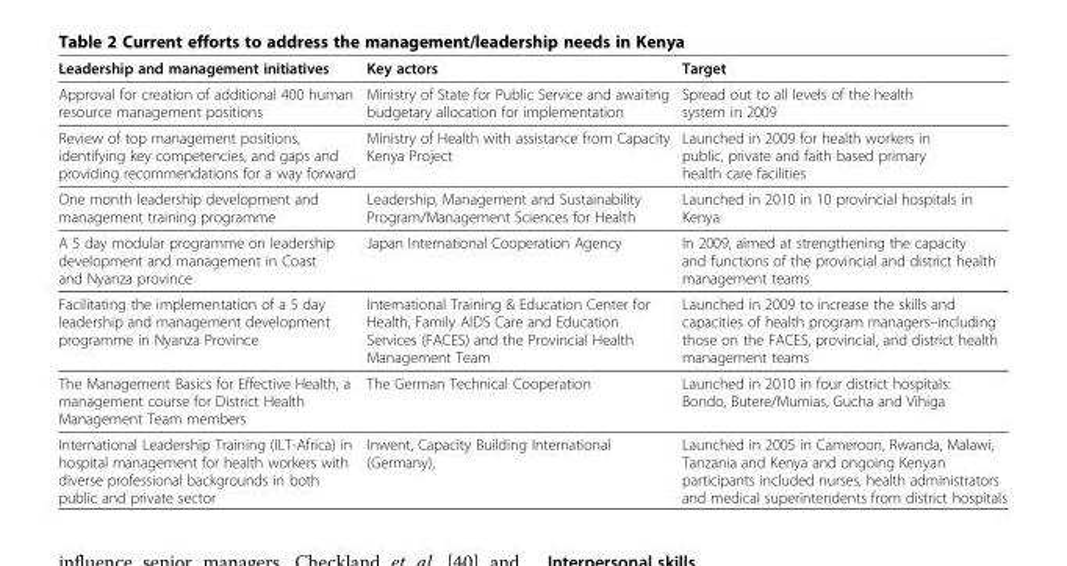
<table><thead><tr><td>Leadership and management initiatives</td><td>Key actors</td><td>Target</td></tr></thead><tbody><tr><td>Approval for creation of additional 400 human resource management positions</td><td>Ministry of State for Public Service and awaiting budgetary allocation for implementation</td><td>Spread out to all levels of the health system in 2009</td></tr><tr><td>Review of top management positions, identifying key competencies, and gaps and providing recommendations for a way forward</td><td>Ministry of Health with assistance from Capacity Kenya Project</td><td>Launched in 2009 for health workers in public, private and faith based primary health care facilities</td></tr><tr><td>One month leadership development and management training programme</td><td>Leadership, Management and Sustainability Program/Management Sciences for Health</td><td>Launched in 2010 in 10 provincial hospitals in Kenya</td></tr><tr><td>A 5 day modular programme on leadership development and management in Coast and Nyanza province</td><td>Japan International Cooperation Agency</td><td>In 2009, aimed at strengthening the capacity and functions of the provincial and district health management teams</td></tr><tr><td>Facilitating the implementation of a 5 day leadership and management development programme in Nyanza Province</td><td>International Training &amp; Education Center for Health, Family AIDS Care and Education Services (FACES) and the Provincial Health Management Team</td><td>Launched in 2009 to increase the skills and capacities of health program managers–including those on the FACES, provincial, and district health management teams</td></tr><tr><td>The Management Basics for Effective Health, a management course for District Health Management Team members</td><td>The German Technical Cooperation</td><td>Launched in 2010 in four district hospitals: Bondo, Butere/Mumias, Gucha and Vihiga</td></tr><tr><td>International Leadership Training (ILT-Africa) in hospital management for health workers with diverse professional backgrounds in both public and private sector</td><td>Inwent, Capacity Building International (Germany),</td><td>Launched in 2005 in Cameroon, Rwanda, Malawi, Tanzania and Kenya and ongoing Kenyan participants included nurses, health administrators and medical superintendents from district hospitals</td></tr></tbody></table>